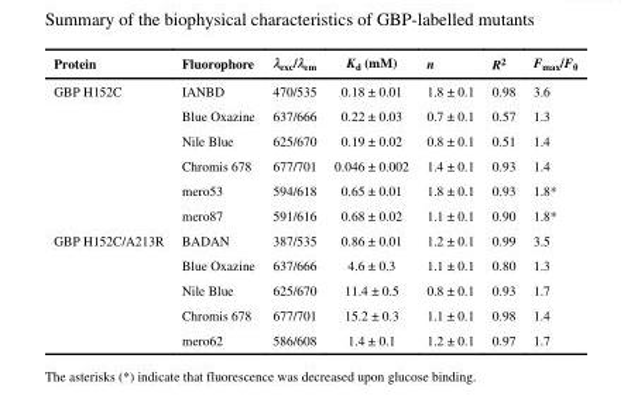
<table><thead><tr><td>Protein</td><td>Fluorophore</td><td>λ<sub>exc</sub>/λ<sub>em</sub></td><td>K<sub>d</sub> (mM)</td><td>n</td><td>R<sup>2</sup></td><td>F<sub>max</sub>/F<sub>0</sub></td></tr></thead><tbody><tr><td rowspan="6">GBP H152C</td><td>IANBD</td><td>470/535</td><td>0.18 ± 0.01</td><td>1.8 ± 0.1</td><td>0.98</td><td>3.6</td></tr><tr><td>Blue Oxazine</td><td>637/666</td><td>0.22 ± 0.03</td><td>0.7 ± 0.1</td><td>0.57</td><td>1.3</td></tr><tr><td>Nile Blue</td><td>625/670</td><td>0.19 ± 0.02</td><td>0.8 ± 0.1</td><td>0.51</td><td>1.4</td></tr><tr><td>Chromis 678</td><td>677/701</td><td>0.046 ± 0.002</td><td>1.4 ± 0.1</td><td>0.93</td><td>1.4</td></tr><tr><td>mero53</td><td>594/618</td><td>0.65 ± 0.01</td><td>1.8 ± 0.1</td><td>0.93</td><td>1.8*</td></tr><tr><td>mero87</td><td>591/616</td><td>0.68 ± 0.02</td><td>1.1 ± 0.1</td><td>0.90</td><td>1.8*</td></tr><tr><td rowspan="5">GBP H152C/A213R</td><td>BADAN</td><td>387/535</td><td>0.86 ± 0.01</td><td>1.2 ± 0.1</td><td>0.99</td><td>3.5</td></tr><tr><td>Blue Oxazine</td><td>637/666</td><td>4.6 ± 0.3</td><td>1.1 ± 0.1</td><td>0.80</td><td>1.3</td></tr><tr><td>Nile Blue</td><td>625/670</td><td>11.4 ± 0.5</td><td>0.8 ± 0.1</td><td>0.93</td><td>1.7</td></tr><tr><td>Chromis 678</td><td>677/701</td><td>15.2 ± 0.3</td><td>1.1 ± 0.1</td><td>0.98</td><td>1.4</td></tr><tr><td>mero62</td><td>586/608</td><td>1.4 ± 0.1</td><td>1.2 ± 0.1</td><td>0.97</td><td>1.7</td></tr></tbody></table>